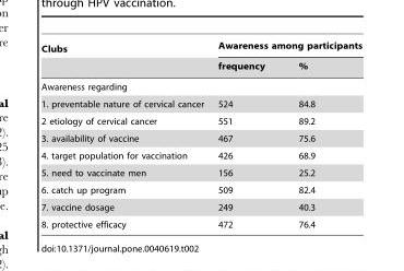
<table><thead><tr><td rowspan="2">Clubs</td><td colspan="2">Awareness among participants</td></tr><tr><td>frequency</td><td>%</td></tr></thead><tbody><tr><td colspan="3">Awareness regarding</td></tr><tr><td>1. preventable nature of cervical cancer</td><td>524</td><td>84.8</td></tr><tr><td>2 etiology of cervical cancer</td><td>551</td><td>89.2</td></tr><tr><td>3. availability of vaccine</td><td>467</td><td>75.6</td></tr><tr><td>4. target population for vaccination</td><td>426</td><td>68.9</td></tr><tr><td>5. need to vaccinate men</td><td>156</td><td>25.2</td></tr><tr><td>6. catch up program</td><td>509</td><td>82.4</td></tr><tr><td>7. vaccine dosage</td><td>249</td><td>40.3</td></tr><tr><td>8. protective efficacy</td><td>472</td><td>76.4</td></tr></tbody></table>